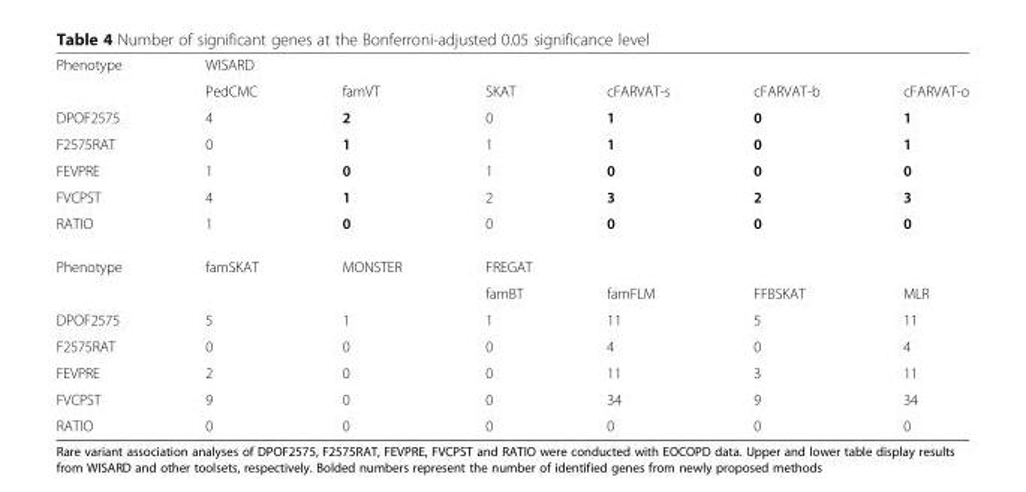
<table><tbody><tr><td rowspan="2">Phenotype</td><td colspan="6">WISARD</td></tr><tr><td>PedCMC</td><td>famVT</td><td>SKAT</td><td>cFARVAT-s</td><td>cFARVAT-b</td><td>cFARVAT-o</td></tr><tr><td>DPOF2575</td><td>4</td><td>2</td><td>0</td><td>1</td><td>0</td><td>1</td></tr><tr><td>F2575RAT</td><td>0</td><td>1</td><td>1</td><td>1</td><td>0</td><td>1</td></tr><tr><td>FEVPRE</td><td>1</td><td>0</td><td>1</td><td>0</td><td>0</td><td>0</td></tr><tr><td>FVCPST</td><td>4</td><td>1</td><td>2</td><td>3</td><td>2</td><td>3</td></tr><tr><td>RATIO</td><td>1</td><td>0</td><td>0</td><td>0</td><td>0</td><td>0</td></tr><tr><td rowspan="2">Phenotype</td><td rowspan="2">famSKAT</td><td rowspan="2">MONSTER</td><td colspan="4">FREGAT</td></tr><tr><td>famBT</td><td>famFLM</td><td>FFBSKAT</td><td>MLR</td></tr><tr><td>DPOF2575</td><td>5</td><td>1</td><td>1</td><td>11</td><td>5</td><td>11</td></tr><tr><td>F2575RAT</td><td>0</td><td>0</td><td>0</td><td>4</td><td>0</td><td>4</td></tr><tr><td>FEVPRE</td><td>2</td><td>0</td><td>0</td><td>11</td><td>3</td><td>11</td></tr><tr><td>FVCPST</td><td>9</td><td>0</td><td>0</td><td>34</td><td>9</td><td>34</td></tr><tr><td>RATIO</td><td>0</td><td>0</td><td>0</td><td>0</td><td>0</td><td>0</td></tr></tbody></table>